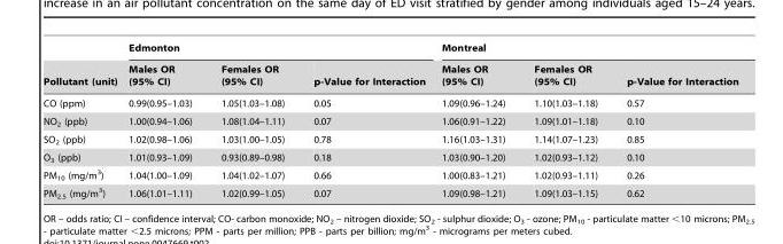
<table><thead><tr><td rowspan="2">Pollutant (unit)</td><td colspan="3">Edmonton</td><td colspan="3">Montreal</td></tr><tr><td>Males OR (95% CI)</td><td>Females OR (95% CI)</td><td>p-Value for Interaction</td><td>Males OR (95% CI)</td><td>Females OR (95% CI)</td><td>p-Value for Interaction</td></tr></thead><tbody><tr><td>CO (ppm)</td><td>0.99(0.95–1.03)</td><td>1.05(1.03–1.08)</td><td>0.05</td><td>1.09(0.96–1.24)</td><td>1.10(1.03–1.18)</td><td>0.57</td></tr><tr><td>NO<sub>2</sub> (ppb)</td><td>1.00(0.94–1.06)</td><td>1.08(1.04–1.11)</td><td>0.07</td><td>1.06(0.91–1.22)</td><td>1.09(1.01–1.18)</td><td>0.10</td></tr><tr><td>SO<sub>2</sub> (ppb)</td><td>1.02(0.98–1.06)</td><td>1.03(1.00–1.05)</td><td>0.78</td><td>1.16(1.03–1.31)</td><td>1.14(1.07–1.23)</td><td>0.85</td></tr><tr><td>O<sub>3</sub> (ppb)</td><td>1.01(0.93–1.09)</td><td>0.93(0.89–0.98)</td><td>0.18</td><td>1.03(0.90–1.20)</td><td>1.02(0.93–1.12)</td><td>0.10</td></tr><tr><td>PM<sub>10</sub> (mg/m<sup>3</sup>)</td><td>1.04(1.00–1.09)</td><td>1.04(1.02–1.07)</td><td>0.66</td><td>1.00(0.83–1.21)</td><td>1.02(0.93–1.11)</td><td>0.26</td></tr><tr><td>PM<sub>2.5</sub> (mg/m<sup>3</sup>)</td><td>1.06(1.01–1.11)</td><td>1.02(0.99–1.05)</td><td>0.07</td><td>1.09(0.98–1.21)</td><td>1.09(1.03–1.15)</td><td>0.62</td></tr></tbody></table>